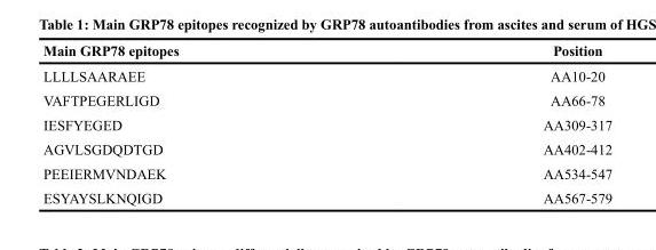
<table><thead><tr><td>Main GRP78 epitopes</td><td>Position</td></tr></thead><tbody><tr><td>LLLLSAARAEE</td><td>AA10-20</td></tr><tr><td>VAFTPEGERLIGD</td><td>AA66-78</td></tr><tr><td>IESFYEGED</td><td>AA309-317</td></tr><tr><td>AGVLSGDQDTGD</td><td>AA402-412</td></tr><tr><td>PEEIERMVNDAEK</td><td>AA534-547</td></tr><tr><td>ESYAYSLKNQIGD</td><td>AA567-579</td></tr></tbody></table>